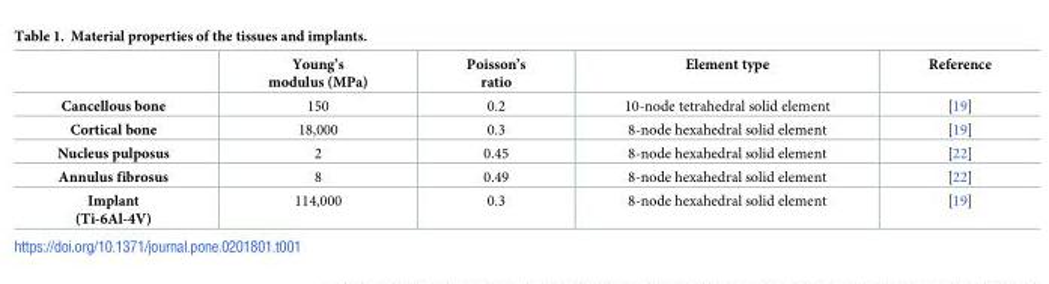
<table><thead><tr><td></td><td>Young’s modulus (MPa)</td><td>Poisson’s ratio</td><td>Element type</td><td>Reference</td></tr></thead><tbody><tr><td>Cancellous bone</td><td>150</td><td>0.2</td><td>10-node tetrahedral solid element</td><td>[19]</td></tr><tr><td>Cortical bone</td><td>18,000</td><td>0.3</td><td>8-node hexahedral solid element</td><td>[19]</td></tr><tr><td>Nucleus pulposus</td><td>2</td><td>0.45</td><td>8-node hexahedral solid element</td><td>[22]</td></tr><tr><td>Annulus fibrosus</td><td>8</td><td>0.49</td><td>8-node hexahedral solid element</td><td>[22]</td></tr><tr><td>Implant (Ti-6Al-4V)</td><td>114,000</td><td>0.3</td><td>8-node hexahedral solid element</td><td>[19]</td></tr></tbody></table>